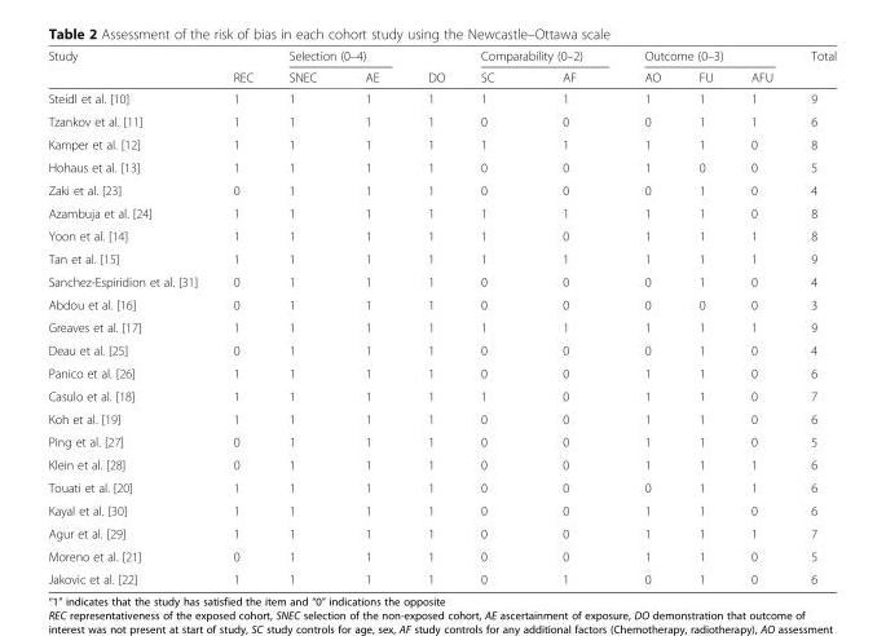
<table><thead><tr><td rowspan="2">Study</td><td rowspan="2">REC</td><td colspan="2">Selection (0–4)</td><td rowspan="2">DO</td><td colspan="2">Comparability (0–2)</td><td colspan="3">Outcome (0–3)</td><td rowspan="2">Total</td></tr><tr><td>SNEC</td><td>AE</td><td>SC</td><td>AF</td><td>AO</td><td>FU</td><td>AFU</td></tr></thead><tbody><tr><td>Steidl et al. [10]</td><td>1</td><td>1</td><td>1</td><td>1</td><td>1</td><td>1</td><td>1</td><td>1</td><td>1</td><td>9</td></tr><tr><td>Tzankov et al. [11]</td><td>1</td><td>1</td><td>1</td><td>1</td><td>0</td><td>0</td><td>0</td><td>1</td><td>1</td><td>6</td></tr><tr><td>Kamper et al. [12]</td><td>1</td><td>1</td><td>1</td><td>1</td><td>1</td><td>1</td><td>1</td><td>1</td><td>0</td><td>8</td></tr><tr><td>Hohaus et al. [13]</td><td>1</td><td>1</td><td>1</td><td>1</td><td>0</td><td>0</td><td>1</td><td>0</td><td>0</td><td>5</td></tr><tr><td>Zaki et al. [23]</td><td>0</td><td>1</td><td>1</td><td>1</td><td>0</td><td>0</td><td>0</td><td>1</td><td>0</td><td>4</td></tr><tr><td>Azambuja et al. [24]</td><td>1</td><td>1</td><td>1</td><td>1</td><td>1</td><td>1</td><td>1</td><td>1</td><td>0</td><td>8</td></tr><tr><td>Yoon et al. [14]</td><td>1</td><td>1</td><td>1</td><td>1</td><td>1</td><td>0</td><td>1</td><td>1</td><td>1</td><td>8</td></tr><tr><td>Tan et al. [15]</td><td>1</td><td>1</td><td>1</td><td>1</td><td>1</td><td>1</td><td>1</td><td>1</td><td>1</td><td>9</td></tr><tr><td>Sanchez-Espiridion et al. [31]</td><td>0</td><td>1</td><td>1</td><td>1</td><td>0</td><td>0</td><td>0</td><td>1</td><td>0</td><td>4</td></tr><tr><td>Abdou et al. [16]</td><td>0</td><td>1</td><td>1</td><td>1</td><td>0</td><td>0</td><td>0</td><td>0</td><td>0</td><td>3</td></tr><tr><td>Greaves et al. [17]</td><td>1</td><td>1</td><td>1</td><td>1</td><td>1</td><td>1</td><td>1</td><td>1</td><td>1</td><td>9</td></tr><tr><td>Deau et al. [25]</td><td>0</td><td>1</td><td>1</td><td>1</td><td>0</td><td>0</td><td>0</td><td>1</td><td>0</td><td>4</td></tr><tr><td>Panico et al. [26]</td><td>1</td><td>1</td><td>1</td><td>1</td><td>0</td><td>0</td><td>1</td><td>1</td><td>0</td><td>6</td></tr><tr><td>Casulo et al. [18]</td><td>1</td><td>1</td><td>1</td><td>1</td><td>1</td><td>0</td><td>1</td><td>1</td><td>0</td><td>7</td></tr><tr><td>Koh et al. [19]</td><td>1</td><td>1</td><td>1</td><td>1</td><td>0</td><td>0</td><td>1</td><td>1</td><td>0</td><td>6</td></tr><tr><td>Ping et al. [27]</td><td>0</td><td>1</td><td>1</td><td>1</td><td>0</td><td>0</td><td>1</td><td>1</td><td>0</td><td>5</td></tr><tr><td>Klein et al. [28]</td><td>0</td><td>1</td><td>1</td><td>1</td><td>0</td><td>0</td><td>1</td><td>1</td><td>1</td><td>6</td></tr><tr><td>Touati et al. [20]</td><td>1</td><td>1</td><td>1</td><td>1</td><td>0</td><td>0</td><td>0</td><td>1</td><td>1</td><td>6</td></tr><tr><td>Kayal et al. [30]</td><td>1</td><td>1</td><td>1</td><td>1</td><td>0</td><td>0</td><td>1</td><td>1</td><td>0</td><td>6</td></tr><tr><td>Agur et al. [29]</td><td>1</td><td>1</td><td>1</td><td>1</td><td>0</td><td>0</td><td>1</td><td>1</td><td>1</td><td>7</td></tr><tr><td>Moreno et al. [21]</td><td>0</td><td>1</td><td>1</td><td>1</td><td>0</td><td>0</td><td>1</td><td>1</td><td>0</td><td>5</td></tr><tr><td>Jakovic et al. [22]</td><td>1</td><td>1</td><td>1</td><td>1</td><td>0</td><td>1</td><td>0</td><td>1</td><td>0</td><td>6</td></tr></tbody></table>